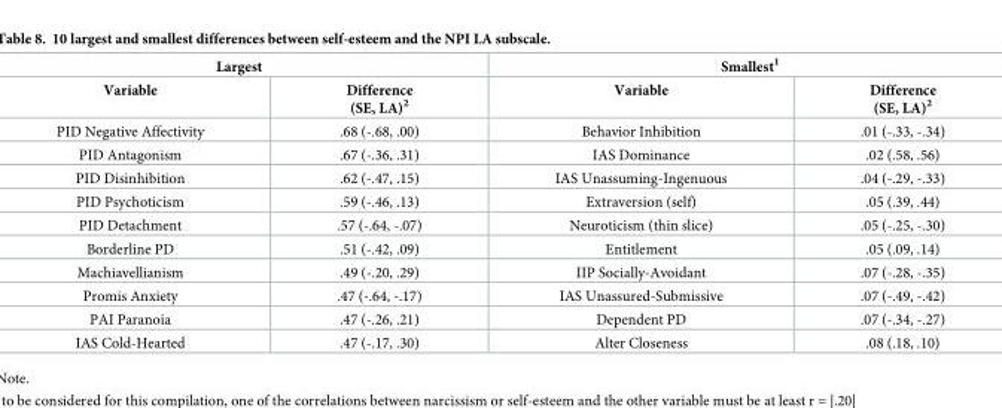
<table><thead><tr><td colspan="2">Largest</td><td colspan="2">Smallest<sup>1</sup></td></tr><tr><td>Variable</td><td>Difference (SE, LA)<sup>2</sup></td><td>Variable</td><td>Difference (SE, LA)<sup>2</sup></td></tr></thead><tbody><tr><td>PID Negative Affectivity</td><td>.68 (-.68, .00)</td><td>Behavior Inhibition</td><td>.01 (-.33, -.34)</td></tr><tr><td>PID Antagonism</td><td>.67 (-.36, .31)</td><td>IAS Dominance</td><td>.02 (.58, .56)</td></tr><tr><td>PID Disinhibition</td><td>.62 (-.47, .15)</td><td>IAS Unassuming-Ingenuous</td><td>.04 (-.29, -.33)</td></tr><tr><td>PID Psychoticism</td><td>.59 (-.46, .13)</td><td>Extraversion (self)</td><td>.05 (.39, .44)</td></tr><tr><td>PID Detachment</td><td>.57 (-.64, -.07)</td><td>Neuroticism (thin slice)</td><td>.05 (-.25, -.30)</td></tr><tr><td>Borderline PD</td><td>.51 (-.42, .09)</td><td>Entitlement</td><td>.05 (.09, .14)</td></tr><tr><td>Machiavellianism</td><td>.49 (-.20, .29)</td><td>IIP Socially-Avoidant</td><td>.07 (-.28, -.35)</td></tr><tr><td>Promis Anxiety</td><td>.47 (-.64, -.17)</td><td>IAS Unassured-Submissive</td><td>.07 (-.49, -.42)</td></tr><tr><td>PAI Paranoia</td><td>.47 (-.26, .21)</td><td>Dependent PD</td><td>.07 (-.34, -.27)</td></tr><tr><td>IAS Cold-Hearted</td><td>.47 (-.17, .30)</td><td>Alter Closeness</td><td>.08 (.18, .10)</td></tr></tbody></table>